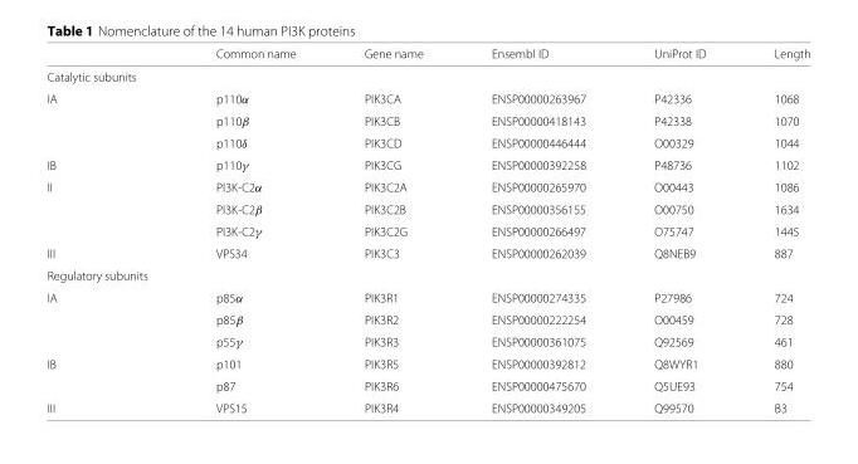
<table><thead><tr><td></td><td>Common name</td><td>Gene name</td><td>Ensembl ID</td><td>UniProt ID</td><td>Length</td></tr></thead><tbody><tr><td colspan="6">Catalytic subunits</td></tr><tr><td rowspan="3">IA</td><td>p110α</td><td>PIK3CA</td><td>ENSP00000263967</td><td>P42336</td><td>1068</td></tr><tr><td>p110β</td><td>PIK3CB</td><td>ENSP00000418143</td><td>P42338</td><td>1070</td></tr><tr><td>p110δ</td><td>PIK3CD</td><td>ENSP00000446444</td><td>O00329</td><td>1044</td></tr><tr><td>IB</td><td>p110γ</td><td>PIK3CG</td><td>ENSP00000392258</td><td>P48736</td><td>1102</td></tr><tr><td rowspan="3">II</td><td>PI3K-C2α</td><td>PIK3C2A</td><td>ENSP00000265970</td><td>O00443</td><td>1086</td></tr><tr><td>PI3K-C2β</td><td>PIK3C2B</td><td>ENSP00000356155</td><td>O00750</td><td>1634</td></tr><tr><td>PI3K-C2γ</td><td>PIK3C2G</td><td>ENSP00000266497</td><td>O75747</td><td>1445</td></tr><tr><td>III</td><td>VPS34</td><td>PIK3C3</td><td>ENSP00000262039</td><td>Q8NEB9</td><td>887</td></tr><tr><td colspan="6">Regulatory subunits</td></tr><tr><td rowspan="3">IA</td><td>p85α</td><td>PIK3R1</td><td>ENSP00000274335</td><td>P27986</td><td>724</td></tr><tr><td>p85β</td><td>PIK3R2</td><td>ENSP00000222254</td><td>O00459</td><td>728</td></tr><tr><td>p55γ</td><td>PIK3R3</td><td>ENSP00000361075</td><td>Q92569</td><td>461</td></tr><tr><td rowspan="2">IB</td><td>p101</td><td>PIK3R5</td><td>ENSP00000392812</td><td>Q8WYR1</td><td>880</td></tr><tr><td>p87</td><td>PIK3R6</td><td>ENSP00000475670</td><td>Q5UE93</td><td>754</td></tr><tr><td>III</td><td>VPS15</td><td>PIK3R4</td><td>ENSP00000349205</td><td>Q99570</td><td>B3</td></tr></tbody></table>